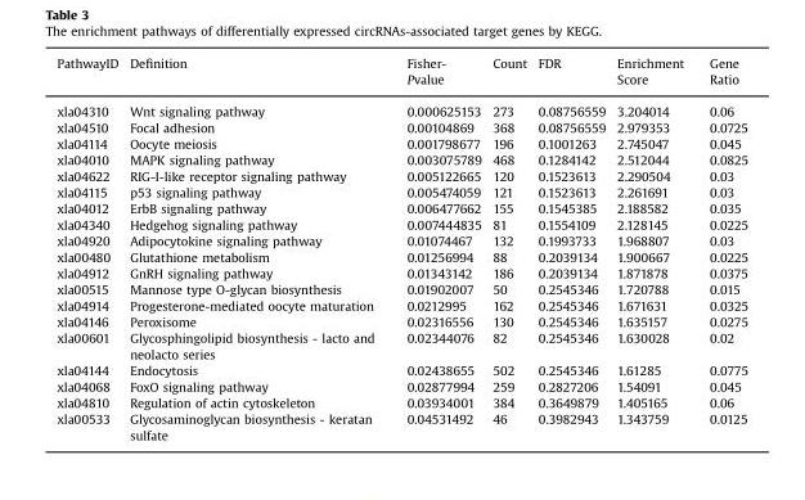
<table><thead><tr><td>PathwayID</td><td>Definition</td><td>Fisher- Pvalue</td><td>Count</td><td>FDR</td><td>Enrichment Score</td><td>Gene Ratio</td></tr></thead><tbody><tr><td>xla04310</td><td>Wnt signaling pathway</td><td>0.000625153</td><td>273</td><td>0.08756559</td><td>3.204014</td><td>0.06</td></tr><tr><td>xla04510</td><td>Focal adhesion</td><td>0.00104869</td><td>368</td><td>0.08756559</td><td>2.979353</td><td>0.0725</td></tr><tr><td>xla04114</td><td>Oocyte meiosis</td><td>0.001798677</td><td>196</td><td>0.1001263</td><td>2.745047</td><td>0.045</td></tr><tr><td>xla04010</td><td>MAPK signaling pathway</td><td>0.003075789</td><td>468</td><td>0.1284142</td><td>2.512044</td><td>0.0825</td></tr><tr><td>xla04622</td><td>RIG-I-like receptor signaling pathway</td><td>0.005122665</td><td>120</td><td>0.1523613</td><td>2.290504</td><td>0.03</td></tr><tr><td>xla04115</td><td>p53 signaling pathway</td><td>0.005474059</td><td>121</td><td>0.1523613</td><td>2.261691</td><td>0.03</td></tr><tr><td>xla04012</td><td>ErbB signaling pathway</td><td>0.006477662</td><td>155</td><td>0.1545385</td><td>2.188582</td><td>0.035</td></tr><tr><td>xla04340</td><td>Hedgehog signaling pathway</td><td>0.007444835</td><td>81</td><td>0.1554109</td><td>2.128145</td><td>0.0225</td></tr><tr><td>xla04920</td><td>Adipocytokine signaling pathway</td><td>0.01074467</td><td>132</td><td>0.1993733</td><td>1.968807</td><td>0.03</td></tr><tr><td>xla00480</td><td>Glutathione metabolism</td><td>0.01256994</td><td>88</td><td>0.2039134</td><td>1.900667</td><td>0.0225</td></tr><tr><td>xla04912</td><td>GnRH signaling pathway</td><td>0.01343142</td><td>186</td><td>0.2039134</td><td>1.871878</td><td>0.0375</td></tr><tr><td>xla00515</td><td>Mannose type O-glycan biosynthesis</td><td>0.01902007</td><td>50</td><td>0.2545346</td><td>1.720788</td><td>0.015</td></tr><tr><td>xla04914</td><td>Progesterone-mediated oocyte maturation</td><td>0.0212995</td><td>162</td><td>0.2545346</td><td>1.671631</td><td>0.0325</td></tr><tr><td>xla04146</td><td>Peroxisome</td><td>0.02316556</td><td>130</td><td>0.2545346</td><td>1.635157</td><td>0.0275</td></tr><tr><td>xla00601</td><td>Glycosphingolipid biosynthesis - lacto and neolacto series</td><td>0.02344076</td><td>82</td><td>0.2545346</td><td>1.630028</td><td>0.02</td></tr><tr><td>xla04144</td><td>Endocytosis</td><td>0.02438655</td><td>502</td><td>0.2545346</td><td>1.61285</td><td>0.0775</td></tr><tr><td>xla04068</td><td>FoxO signaling pathway</td><td>0.02877994</td><td>259</td><td>0.2827206</td><td>1.54091</td><td>0.045</td></tr><tr><td>xla04810</td><td>Regulation of actin cytoskeleton</td><td>0.03934001</td><td>384</td><td>0.3649879</td><td>1.405165</td><td>0.06</td></tr><tr><td>xla00533</td><td>Glycosaminoglycan biosynthesis - keratan sulfate</td><td>0.04531492</td><td>46</td><td>0.3982943</td><td>1.343759</td><td>0.0125</td></tr></tbody></table>